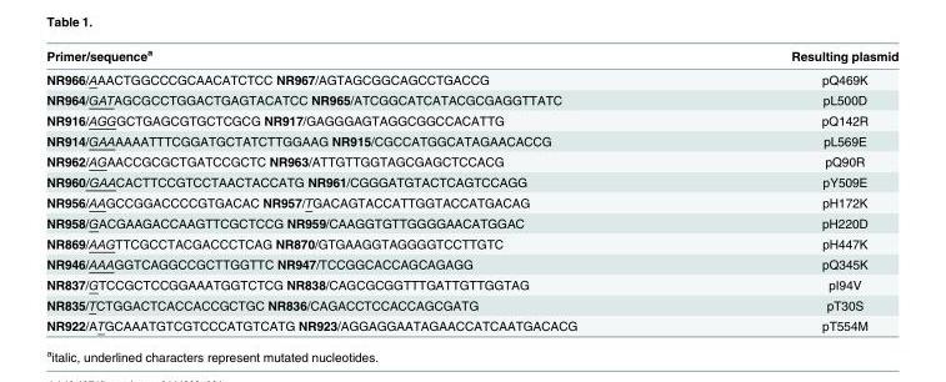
<table><thead><tr><td>Primer/sequence<sup>a</sup></td><td>Resulting plasmid</td></tr></thead><tbody><tr><td>NR966/AAACTGGCCCGCAACATCTCC NR967/AGTAGCGGCAGCCTGACCG</td><td>pQ469K</td></tr><tr><td>NR964/GATAGCGCCTGGACTGAGTACATCC NR965/ATCGGCATCATACGCGAGGTTATC</td><td>pL500D</td></tr><tr><td>NR916/AGGGCTGAGCGTGCTCGCG NR917/GAGGGAGTAGGCGGCCACATTG</td><td>pQ142R</td></tr><tr><td>NR914/GAAAAAATTTCGGATGCTATCTTGGAAG NR915/CGCCATGGCATAGAACACCG</td><td>pL569E</td></tr><tr><td>NR962/AGAACCGCGCTGATCCGCTC NR963/ATTGTTGGTAGCGAGCTCCACG</td><td>pQ90R</td></tr><tr><td>NR960/GAACACTTCCGTCCTAACTACCATG NR961/CGGGATGTACTCAGTCCAGG</td><td>pY509E</td></tr><tr><td>NR956/AAGCCGGACCCCGTGACAC NR957/TGACAGTACCATTGGTACCATGACAG</td><td>pH172K</td></tr><tr><td>NR958/GACGAAGACCAAGTTCGCTCCG NR959/CAAGGTGTTGGGGAACATGGAC</td><td>pH220D</td></tr><tr><td>NR869/AAGTTCGCCTACGACCCTCAG NR870/GTGAAGGTAGGGGTCCTTGTC</td><td>pH447K</td></tr><tr><td>NR946/AAAGGTCAGGCCGCTTGGTTC NR947/TCCGGCACCAGCAGAGG</td><td>pQ345K</td></tr><tr><td>NR837/GTCCGCTCCGGAAATGGTCTCG NR838/CAGCGCGGTTTGATTGTTGGTAG</td><td>pI94V</td></tr><tr><td>NR835/TCTGGACTCACCACCGCTGC NR836/CAGACCTCCACCAGCGATG</td><td>pT30S</td></tr><tr><td>NR922/ATGCAAATGTCGTCCCATGTCATG NR923/AGGAGGAATAGAACCATCAATGACACG</td><td>pT554M</td></tr></tbody></table>